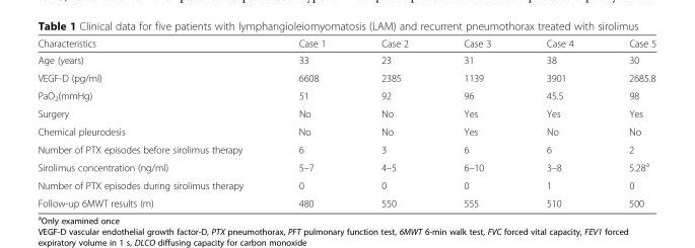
<table><thead><tr><td>Characteristics</td><td>Case 1</td><td>Case 2</td><td>Case 3</td><td>Case 4</td><td>Case 5</td></tr></thead><tbody><tr><td>Age (years)</td><td>33</td><td>23</td><td>31</td><td>38</td><td>30</td></tr><tr><td>VEGF-D (pg/ml)</td><td>6608</td><td>2385</td><td>1139</td><td>3901</td><td>2685.8</td></tr><tr><td>PaO<sub>2</sub>(mmHg)</td><td>51</td><td>92</td><td>96</td><td>45.5</td><td>98</td></tr><tr><td>Surgery</td><td>No</td><td>No</td><td>Yes</td><td>Yes</td><td>Yes</td></tr><tr><td>Chemical pleurodesis</td><td>No</td><td>No</td><td>Yes</td><td>No</td><td>No</td></tr><tr><td>Number of PTX episodes before sirolimus therapy</td><td>6</td><td>3</td><td>6</td><td>6</td><td>2</td></tr><tr><td>Sirolimus concentration (ng/ml)</td><td>5–7</td><td>4–5</td><td>6–10</td><td>3–8</td><td>5.28<sup>a</sup></td></tr><tr><td>Number of PTX episodes during sirolimus therapy</td><td>0</td><td>0</td><td>0</td><td>1</td><td>0</td></tr><tr><td>Follow-up 6MWT results (m)</td><td>480</td><td>550</td><td>555</td><td>510</td><td>500</td></tr></tbody></table>